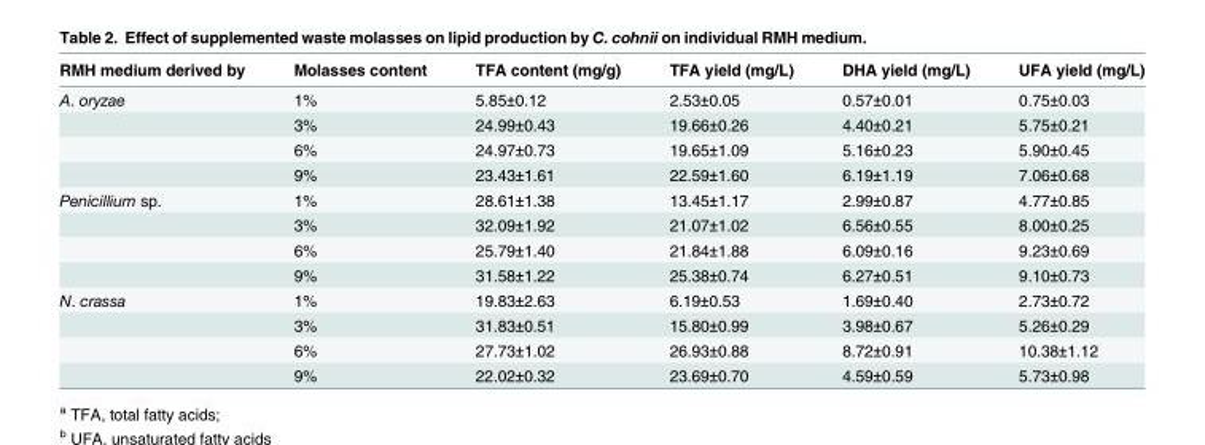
<table><thead><tr><td>RMH medium derived by</td><td>Molasses content</td><td>TFA content (mg/g)</td><td>TFA yield (mg/L)</td><td>DHA yield (mg/L)</td><td>UFA yield (mg/L)</td></tr></thead><tbody><tr><td rowspan="4">A. oryzae</td><td>1%</td><td>5.85±0.12</td><td>2.53±0.05</td><td>0.57±0.01</td><td>0.75±0.03</td></tr><tr><td>3%</td><td>24.99±0.43</td><td>19.66±0.26</td><td>4.40±0.21</td><td>5.75±0.21</td></tr><tr><td>6%</td><td>24.97±0.73</td><td>19.65±1.09</td><td>5.16±0.23</td><td>5.90±0.45</td></tr><tr><td>9%</td><td>23.43±1.61</td><td>22.59±1.60</td><td>6.19±1.19</td><td>7.06±0.68</td></tr><tr><td rowspan="4">Penicillium sp.</td><td>1%</td><td>28.61±1.38</td><td>13.45±1.17</td><td>2.99±0.87</td><td>4.77±0.85</td></tr><tr><td>3%</td><td>32.09±1.92</td><td>21.07±1.02</td><td>6.56±0.55</td><td>8.00±0.25</td></tr><tr><td>6%</td><td>25.79±1.40</td><td>21.84±1.88</td><td>6.09±0.16</td><td>9.23±0.69</td></tr><tr><td>9%</td><td>31.58±1.22</td><td>25.38±0.74</td><td>6.27±0.51</td><td>9.10±0.73</td></tr><tr><td rowspan="4">N. crassa</td><td>1%</td><td>19.83±2.63</td><td>6.19±0.53</td><td>1.69±0.40</td><td>2.73±0.72</td></tr><tr><td>3%</td><td>31.83±0.51</td><td>15.80±0.99</td><td>3.98±0.67</td><td>5.26±0.29</td></tr><tr><td>6%</td><td>27.73±1.02</td><td>26.93±0.88</td><td>8.72±0.91</td><td>10.38±1.12</td></tr><tr><td>9%</td><td>22.02±0.32</td><td>23.69±0.70</td><td>4.59±0.59</td><td>5.73±0.98</td></tr></tbody></table>